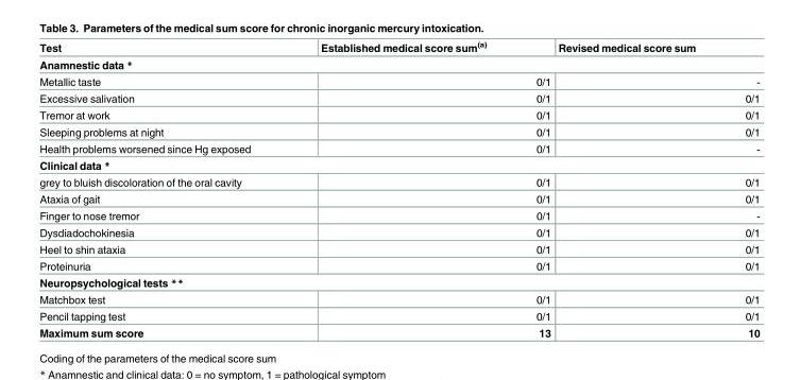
<table><thead><tr><td>Test</td><td>Established medical score sum<sup>(a)</sup></td><td>Revised medical score sum</td></tr></thead><tbody><tr><td colspan="3">Anamnestic data *</td></tr><tr><td>Metallic taste</td><td>0/1</td><td>-</td></tr><tr><td>Excessive salivation</td><td>0/1</td><td>0/1</td></tr><tr><td>Tremor at work</td><td>0/1</td><td>0/1</td></tr><tr><td>Sleeping problems at night</td><td>0/1</td><td>0/1</td></tr><tr><td>Health problems worsened since Hg exposed</td><td>0/1</td><td>-</td></tr><tr><td colspan="3">Clinical data *</td></tr><tr><td>grey to bluish discoloration of the oral cavity</td><td>0/1</td><td>0/1</td></tr><tr><td>Ataxia of gait</td><td>0/1</td><td>0/1</td></tr><tr><td>Finger to nose tremor</td><td>0/1</td><td>-</td></tr><tr><td>Dysdiadochokinesia</td><td>0/1</td><td>0/1</td></tr><tr><td>Heel to shin ataxia</td><td>0/1</td><td>0/1</td></tr><tr><td>Proteinuria</td><td>0/1</td><td>0/1</td></tr><tr><td colspan="3">Neuropsychological tests **</td></tr><tr><td>Matchbox test</td><td>0/1</td><td>0/1</td></tr><tr><td>Pencil tapping test</td><td>0/1</td><td>0/1</td></tr><tr><td>Maximum sum score</td><td>13</td><td>10</td></tr></tbody></table>